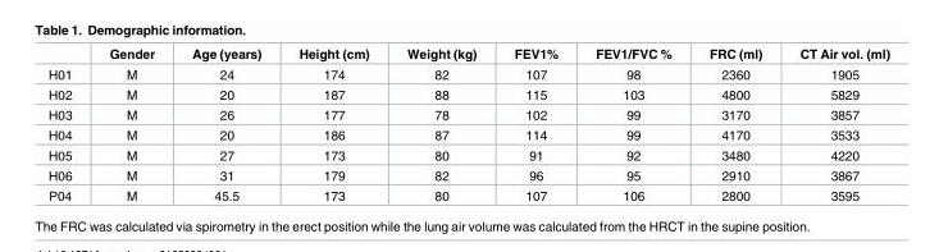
<table><thead><tr><td></td><td>Gender</td><td>Age (years)</td><td>Height (cm)</td><td>Weight (kg)</td><td>FEV1%</td><td>FEV1/FVC %</td><td>FRC (ml)</td><td>CT Air vol. (ml)</td></tr></thead><tbody><tr><td>H01</td><td>M</td><td>24</td><td>174</td><td>82</td><td>107</td><td>98</td><td>2360</td><td>1905</td></tr><tr><td>H02</td><td>M</td><td>20</td><td>187</td><td>88</td><td>115</td><td>103</td><td>4800</td><td>5829</td></tr><tr><td>H03</td><td>M</td><td>26</td><td>177</td><td>78</td><td>102</td><td>99</td><td>3170</td><td>3857</td></tr><tr><td>H04</td><td>M</td><td>20</td><td>186</td><td>87</td><td>114</td><td>99</td><td>4170</td><td>3533</td></tr><tr><td>H05</td><td>M</td><td>27</td><td>173</td><td>80</td><td>91</td><td>92</td><td>3480</td><td>4220</td></tr><tr><td>H06</td><td>M</td><td>31</td><td>179</td><td>82</td><td>96</td><td>95</td><td>2910</td><td>3867</td></tr><tr><td>P04</td><td>M</td><td>45.5</td><td>173</td><td>80</td><td>107</td><td>106</td><td>2800</td><td>3595</td></tr></tbody></table>